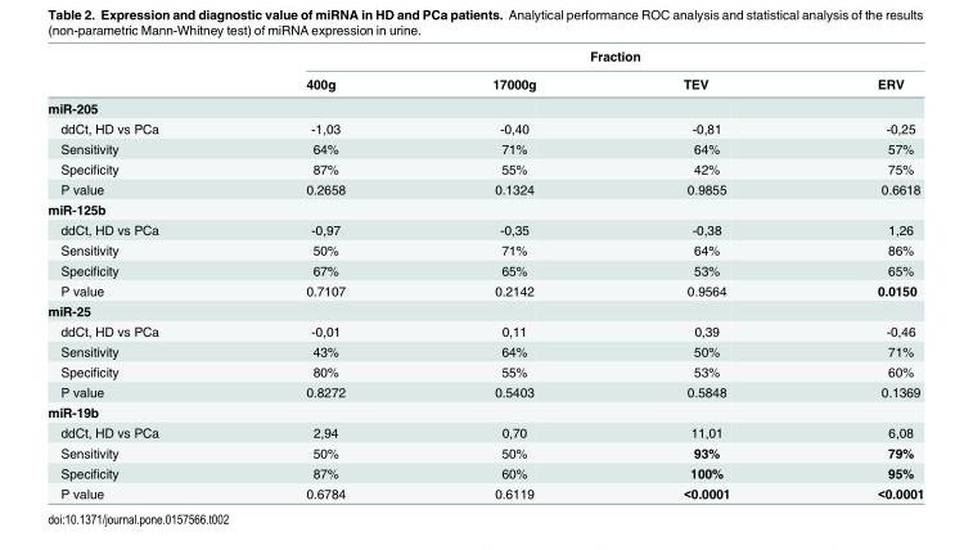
<table><thead><tr><td rowspan="2"></td><td colspan="4">Fraction</td></tr><tr><td>400g</td><td>17000g</td><td>TEV</td><td>ERV</td></tr></thead><tbody><tr><td colspan="5">miR-205</td></tr><tr><td>ddCt, HD vs PCa</td><td>-1,03</td><td>-0,40</td><td>-0,81</td><td>-0,25</td></tr><tr><td>Sensitivity</td><td>64%</td><td>71%</td><td>64%</td><td>57%</td></tr><tr><td>Specificity</td><td>87%</td><td>55%</td><td>42%</td><td>75%</td></tr><tr><td>P value</td><td>0.2658</td><td>0.1324</td><td>0.9855</td><td>0.6618</td></tr><tr><td colspan="5">miR-125b</td></tr><tr><td>ddCt, HD vs PCa</td><td>-0,97</td><td>-0,35</td><td>-0,38</td><td>1,26</td></tr><tr><td>Sensitivity</td><td>50%</td><td>71%</td><td>64%</td><td>86%</td></tr><tr><td>Specificity</td><td>67%</td><td>65%</td><td>53%</td><td>65%</td></tr><tr><td>P value</td><td>0.7107</td><td>0.2142</td><td>0.9564</td><td>0.0150</td></tr><tr><td colspan="5">miR-25</td></tr><tr><td>ddCt, HD vs PCa</td><td>-0,01</td><td>0,11</td><td>0,39</td><td>-0,46</td></tr><tr><td>Sensitivity</td><td>43%</td><td>64%</td><td>50%</td><td>71%</td></tr><tr><td>Specificity</td><td>80%</td><td>55%</td><td>53%</td><td>60%</td></tr><tr><td>P value</td><td>0.8272</td><td>0.5403</td><td>0.5848</td><td>0.1369</td></tr><tr><td colspan="5">miR-19b</td></tr><tr><td>ddCt, HD vs PCa</td><td>2,94</td><td>0,70</td><td>11,01</td><td>6,08</td></tr><tr><td>Sensitivity</td><td>50%</td><td>50%</td><td>93%</td><td>79%</td></tr><tr><td>Specificity</td><td>87%</td><td>60%</td><td>100%</td><td>95%</td></tr><tr><td>P value</td><td>0.6784</td><td>0.6119</td><td>&lt;0.0001</td><td>&lt;0.0001</td></tr></tbody></table>